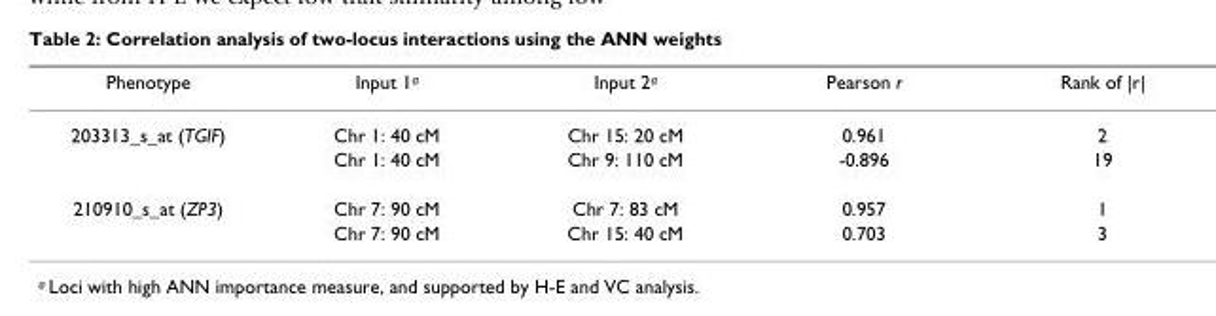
<table><thead><tr><td>Phenotype</td><td>Input 1<sup>a</sup></td><td>Input 2<sup>a</sup></td><td>Pearson r</td><td>Rank of |r|</td></tr></thead><tbody><tr><td rowspan="2">203313_s_at (TGIF)</td><td>Chr 1: 40 cM</td><td>Chr 15: 20 cM</td><td>0.961</td><td>2</td></tr><tr><td>Chr 1: 40 cM</td><td>Chr 9: 110 cM</td><td>-0.896</td><td>19</td></tr><tr><td rowspan="2">210910_s_at (ZP3)</td><td>Chr 7: 90 cM</td><td>Chr 7: 83 cM</td><td>0.957</td><td>1</td></tr><tr><td>Chr 7: 90 cM</td><td>Chr 15: 40 cM</td><td>0.703</td><td>3</td></tr></tbody></table>